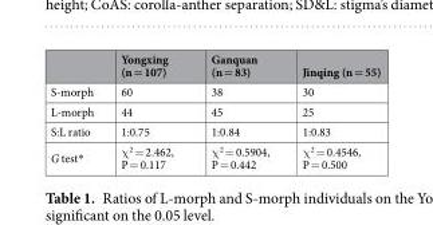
<table><thead><tr><td></td><td>Yongxing (n = 107)</td><td>Ganquan (n = 83)</td><td>Jinqing (n = 55)</td></tr></thead><tbody><tr><td>S-morph</td><td>60</td><td>38</td><td>30</td></tr><tr><td>L-morph</td><td>44</td><td>45</td><td>25</td></tr><tr><td>S:L ratio</td><td>1:0.75</td><td>1:0.84</td><td>1:0.83</td></tr><tr><td>G test*</td><td>χ<sup>2</sup> = 2.462, P = 0.117</td><td>χ<sup>2</sup> = 0.5904, P = 0.442</td><td>χ<sup>2</sup> = 0.4546, P = 0.500</td></tr></tbody></table>